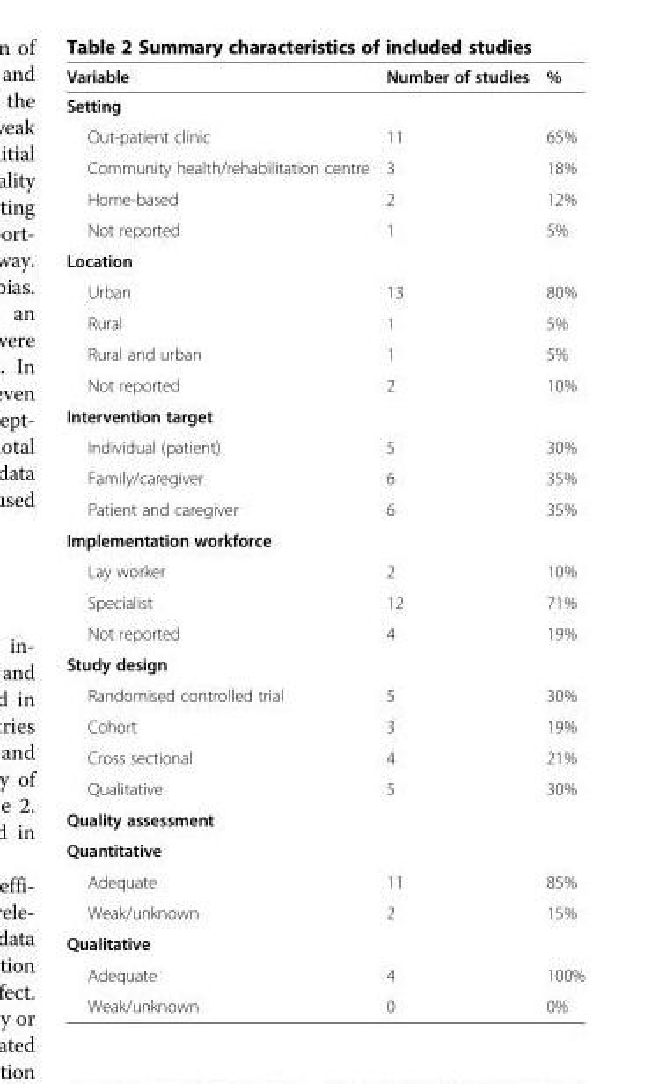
<table><thead><tr><td>Variable</td><td>Number of studies</td><td>%</td></tr></thead><tbody><tr><td colspan="3">Setting</td></tr><tr><td>Out-patient clinic</td><td>11</td><td>65%</td></tr><tr><td>Community health/rehabilitation centre</td><td>3</td><td>18%</td></tr><tr><td>Home-based</td><td>2</td><td>12%</td></tr><tr><td>Not reported</td><td>1</td><td>5%</td></tr><tr><td colspan="3">Location</td></tr><tr><td>Urban</td><td>13</td><td>80%</td></tr><tr><td>Rural</td><td>1</td><td>5%</td></tr><tr><td>Rural and urban</td><td>1</td><td>5%</td></tr><tr><td>Not reported</td><td>2</td><td>10%</td></tr><tr><td colspan="3">Intervention target</td></tr><tr><td>Individual (patient)</td><td>5</td><td>30%</td></tr><tr><td>Family/caregiver</td><td>6</td><td>35%</td></tr><tr><td>Patient and caregiver</td><td>6</td><td>35%</td></tr><tr><td colspan="3">Implementation workforce</td></tr><tr><td>Lay worker</td><td>2</td><td>10%</td></tr><tr><td>Specialist</td><td>12</td><td>71%</td></tr><tr><td>Not reported</td><td>4</td><td>19%</td></tr><tr><td colspan="3">Study design</td></tr><tr><td>Randomised controlled trial</td><td>5</td><td>30%</td></tr><tr><td>Cohort</td><td>3</td><td>19%</td></tr><tr><td>Cross sectional</td><td>4</td><td>21%</td></tr><tr><td>Qualitative</td><td>5</td><td>30%</td></tr><tr><td colspan="3">Quality assessment</td></tr><tr><td colspan="3">Quantitative</td></tr><tr><td>Adequate</td><td>11</td><td>85%</td></tr><tr><td>Weak/unknown</td><td>2</td><td>15%</td></tr><tr><td colspan="3">Qualitative</td></tr><tr><td>Adequate</td><td>4</td><td>100%</td></tr><tr><td>Weak/unknown</td><td>0</td><td>0%</td></tr></tbody></table>